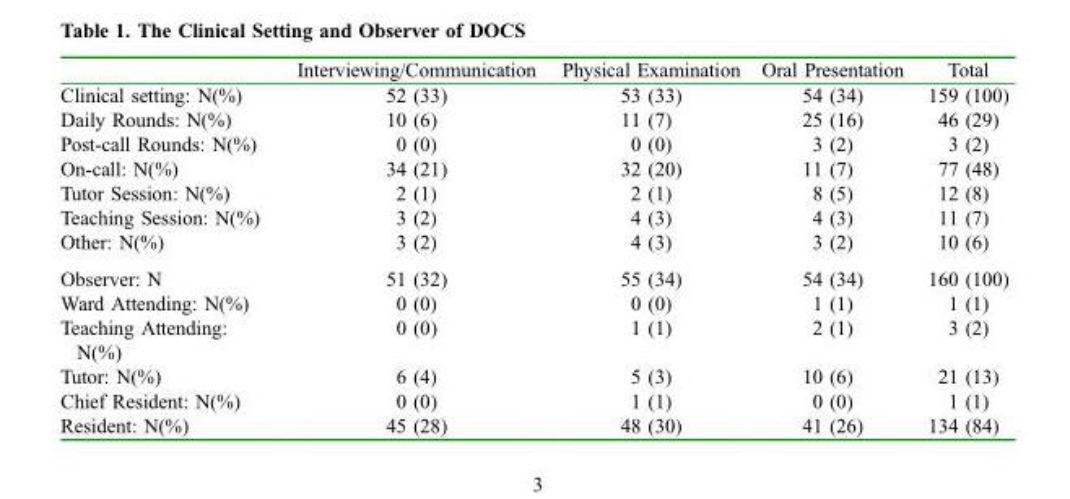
<table><thead><tr><td></td><td>Interviewing/Communication</td><td>Physical Examination</td><td>Oral Presentation</td><td>Total</td></tr></thead><tbody><tr><td>Clinical setting: N(%)</td><td>52 (33)</td><td>53 (33)</td><td>54 (34)</td><td>159 (100)</td></tr><tr><td>Daily Rounds: N(%)</td><td>10 (6)</td><td>11 (7)</td><td>25 (16)</td><td>46 (29)</td></tr><tr><td>Post-call Rounds: N(%)</td><td>0 (0)</td><td>0 (0)</td><td>3 (2)</td><td>3 (2)</td></tr><tr><td>On-call: N(%)</td><td>34 (21)</td><td>32 (20)</td><td>11 (7)</td><td>77 (48)</td></tr><tr><td>Tutor Session: N(%)</td><td>2 (1)</td><td>2 (1)</td><td>8 (5)</td><td>12 (8)</td></tr><tr><td>Teaching Session: N(%)</td><td>3 (2)</td><td>4 (3)</td><td>4 (3)</td><td>11 (7)</td></tr><tr><td>Other: N(%)</td><td>3 (2)</td><td>4 (3)</td><td>3 (2)</td><td>10 (6)</td></tr><tr><td>Observer: N</td><td>51 (32)</td><td>55 (34)</td><td>54 (34)</td><td>160 (100)</td></tr><tr><td>Ward Attending: N(%)</td><td>0 (0)</td><td>0 (0)</td><td>1 (1)</td><td>1 (1)</td></tr><tr><td>Teaching Attending: N(%)</td><td>0 (0)</td><td>1 (1)</td><td>2 (1)</td><td>3 (2)</td></tr><tr><td>Tutor: N(%)</td><td>6 (4)</td><td>5 (3)</td><td>10 (6)</td><td>21 (13)</td></tr><tr><td>Chief Resident: N(%)</td><td>0 (0)</td><td>1 (1)</td><td>0 (0)</td><td>1 (1)</td></tr><tr><td>Resident: N(%)</td><td>45 (28)</td><td>48 (30)</td><td>41 (26)</td><td>134 (84)</td></tr></tbody></table>